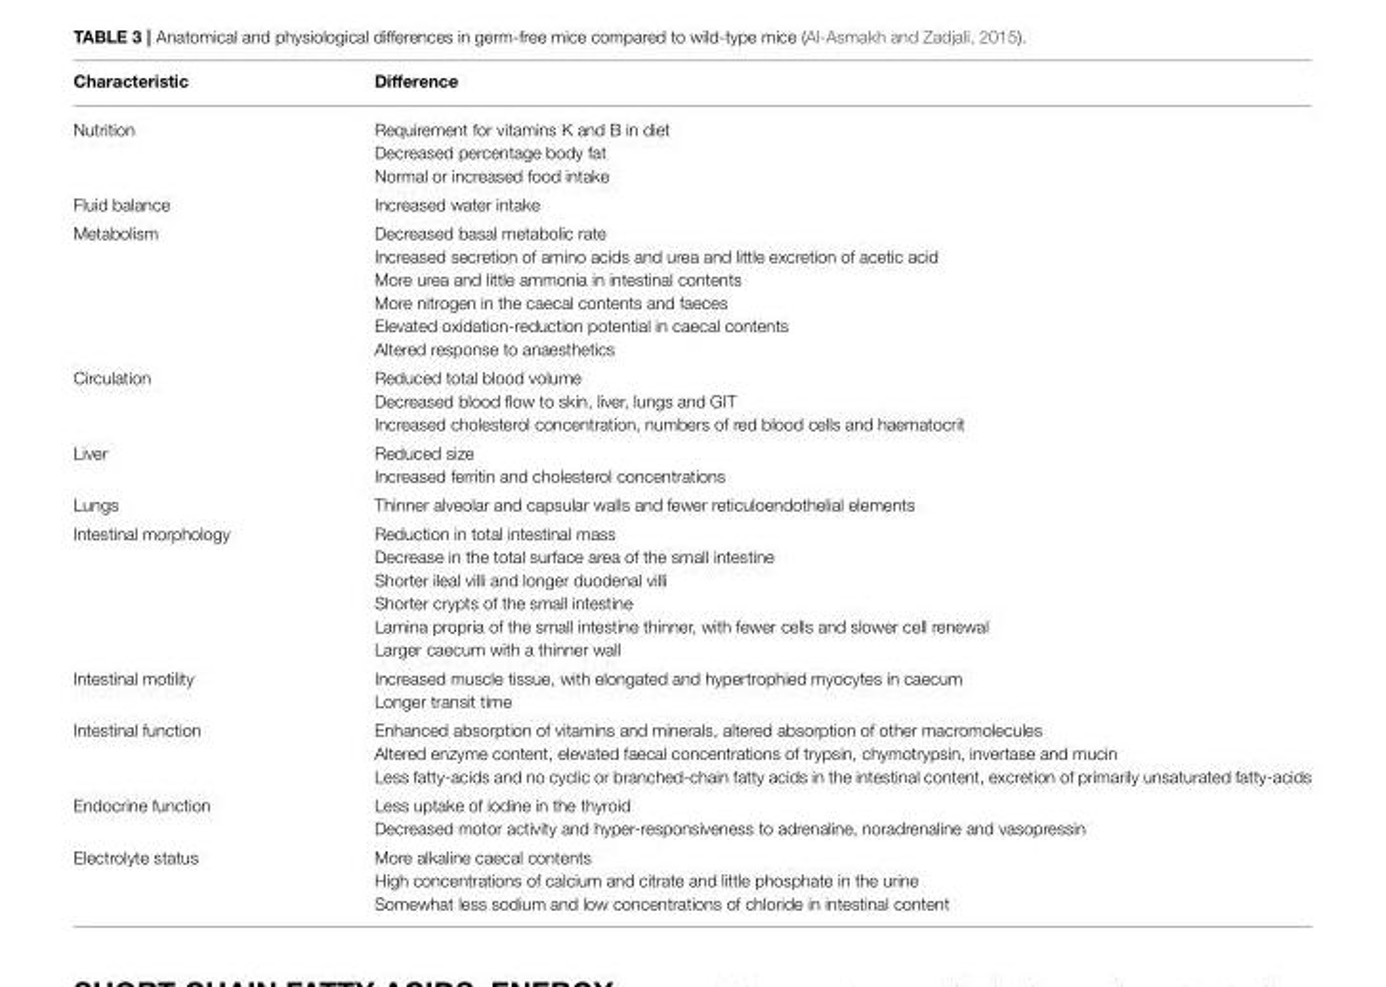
<table><thead><tr><td>Characteristic</td><td>Difference</td></tr></thead><tbody><tr><td>Nutrition</td><td>Requirement for vitamins K and B in diet Decreased percentage body fat Normal or increased food intake</td></tr><tr><td>Fluid balance</td><td>Increased water intake</td></tr><tr><td>Metabolism</td><td>Decreased basal metabolic rate Increased secretion of amino acids and urea and little excretion of acetic acid More urea and little ammonia in intestinal contents More nitrogen in the caecal contents and faeces Elevated oxidation-reduction potential in caecal contents Altered response to anaesthetics</td></tr><tr><td>Circulation</td><td>Reduced total blood volume Decreased blood flow to skin, liver, lungs and GIT Increased cholesterol concentration, numbers of red blood cells and haematocrit</td></tr><tr><td>Liver</td><td>Reduced size Increased ferritin and cholesterol concentrations</td></tr><tr><td>Lungs</td><td>Thinner alveolar and capsular walls and fewer reticuloendothelial elements</td></tr><tr><td>Intestinal morphology</td><td>Reduction in total intestinal mass Decrease in the total surface area of the small intestine Shorter ileal villi and longer duodenal villi Shorter crypts of the small intestine Lamina propria of the small intestine thinner, with fewer cells and slower cell renewal Larger caecum with a thinner wall</td></tr><tr><td>Intestinal motility</td><td>Increased muscle tissue, with elongated and hypertrophied myocytes in caecum Longer transit time</td></tr><tr><td>Intestinal function</td><td>Enhanced absorption of vitamins and minerals, altered absorption of other macromolecules Altered enzyme content, elevated faecal concentrations of trypsin, chymotrypsin, invertase and mucin Less fatty-acids and no cyclic or branched-chain fatty acids in the intestinal content, excretion of primarily unsaturated fatty-acids</td></tr><tr><td>Endocrine function</td><td>Less uptake of iodine in the thyroid Decreased motor activity and hyper-responsiveness to adrenaline, noradrenaline and vasopressin</td></tr><tr><td>Electrolyte status</td><td>More alkaline caecal contents High concentrations of calcium and citrate and little phosphate in the urine Somewhat less sodium and low concentrations of chloride in intestinal content</td></tr></tbody></table>